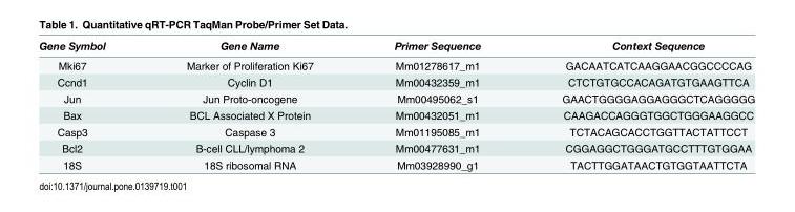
<table><thead><tr><td>Gene Symbol</td><td>Gene Name</td><td>Primer Sequence</td><td>Context Sequence</td></tr></thead><tbody><tr><td>Mki67</td><td>Marker of Proliferation Ki67</td><td>Mm01278617_m1</td><td>GACAATCATCAAGGAACGGCCCCAG</td></tr><tr><td>Ccnd1</td><td>Cyclin D1</td><td>Mm00432359_m1</td><td>CTCTGTGCCACAGATGTGAAGTTCA</td></tr><tr><td>Jun</td><td>Jun Proto-oncogene</td><td>Mm00495062_s1</td><td>GAACTGGGGAGGAGGGCTCAGGGGG</td></tr><tr><td>Bax</td><td>BCL Associated X Protein</td><td>Mm00432051_m1</td><td>CAAGACCAGGGTGGCTGGGAAGGCC</td></tr><tr><td>Casp3</td><td>Caspase 3</td><td>Mm01195085_m1</td><td>TCTACAGCACCTGGTTACTATTCCT</td></tr><tr><td>Bcl2</td><td>B-cell CLL/lymphoma 2</td><td>Mm00477631_m1</td><td>CGGAGGCTGGGATGCCTTTGTGGAA</td></tr><tr><td>18S</td><td>18S ribosomal RNA</td><td>Mm03928990_g1</td><td>TACTTGGATAACTGTGGTAATTCTA</td></tr></tbody></table>